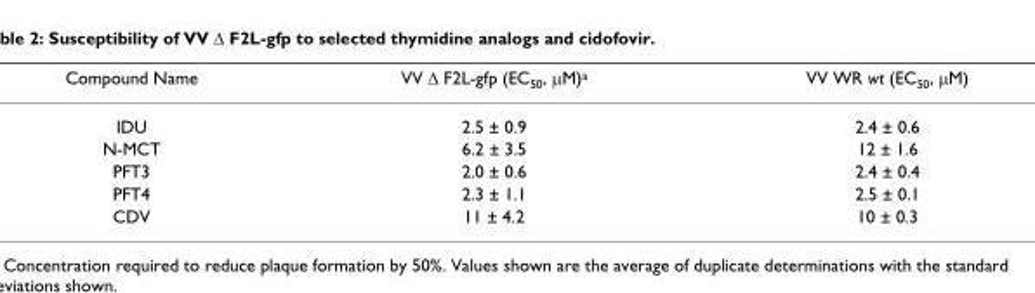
<table><thead><tr><td>Compound Name</td><td>VV Δ F2L-gfp (EC<sub>50</sub>, μM)<sup>a</sup></td><td>VV WR wt (EC<sub>50</sub>, μM)</td></tr></thead><tbody><tr><td>IDU</td><td>2.5 ± 0.9</td><td>2.4 ± 0.6</td></tr><tr><td>N-MCT</td><td>6.2 ± 3.5</td><td>12 ± 1.6</td></tr><tr><td>PFT3</td><td>2.0 ± 0.6</td><td>2.4 ± 0.4</td></tr><tr><td>PFT4</td><td>2.3 ± 1.1</td><td>2.5 ± 0.1</td></tr><tr><td>CDV</td><td>11 ± 4.2</td><td>10 ± 0.3</td></tr></tbody></table>